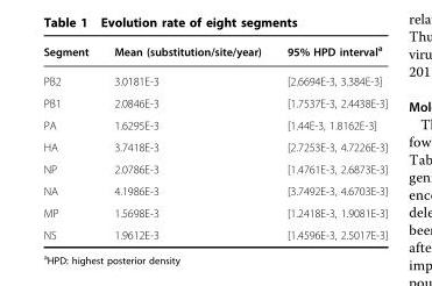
<table><thead><tr><td>Segment</td><td>Mean (substitution/site/year)</td><td>95% HPD interval<sup>a</sup></td></tr></thead><tbody><tr><td>PB2</td><td>3.0181E-3</td><td>[2.6694E-3, 3.384E-3]</td></tr><tr><td>PB1</td><td>2.0846E-3</td><td>[1.7537E-3, 2.4438E-3]</td></tr><tr><td>PA</td><td>1.6295E-3</td><td>[1.44E-3, 1.8162E-3]</td></tr><tr><td>HA</td><td>3.7418E-3</td><td>[2.7253E-3, 4.7226E-3]</td></tr><tr><td>NP</td><td>2.0786E-3</td><td>[1.4761E-3, 2.6873E-3]</td></tr><tr><td>NA</td><td>4.1986E-3</td><td>[3.7492E-3, 4.6703E-3]</td></tr><tr><td>MP</td><td>1.5698E-3</td><td>[1.2418E-3, 1.9081E-3]</td></tr><tr><td>NS</td><td>1.9612E-3</td><td>[1.4596E-3, 2.5017E-3]</td></tr></tbody></table>